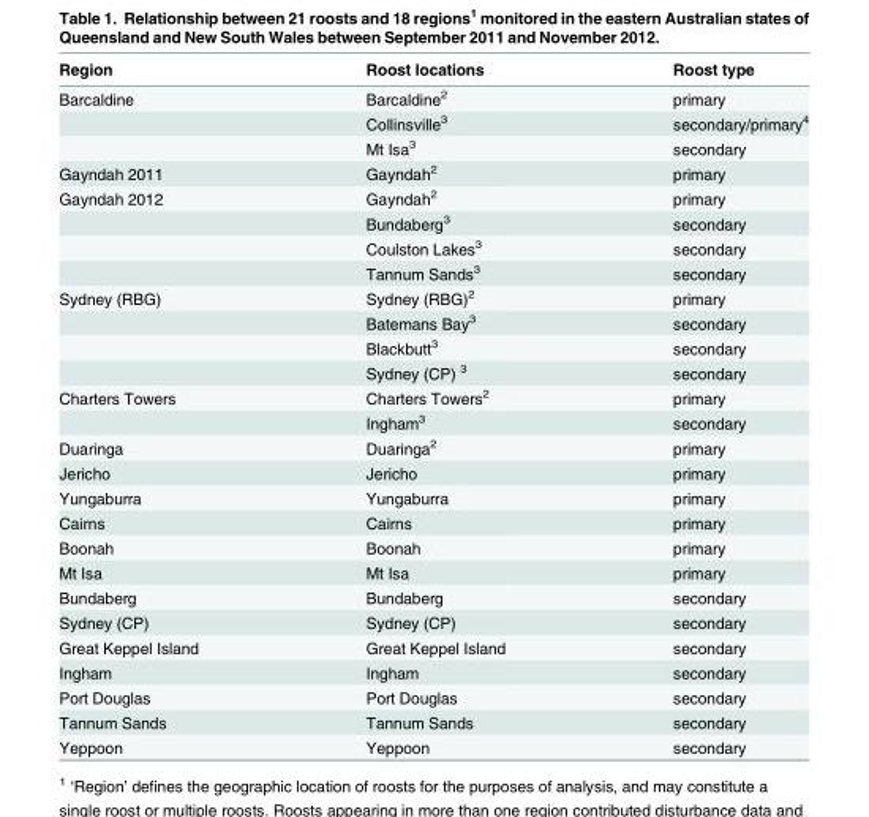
<table><thead><tr><td>Region</td><td>Roost locations</td><td>Roost type</td></tr></thead><tbody><tr><td rowspan="3">Barcaldine</td><td>Barcaldine<sup>2</sup></td><td>primary</td></tr><tr><td>Collinsville<sup>3</sup></td><td>secondary/primary<sup>4</sup></td></tr><tr><td>Mt Isa<sup>3</sup></td><td>secondary</td></tr><tr><td>Gayndah 2011</td><td>Gayndah<sup>2</sup></td><td>primary</td></tr><tr><td rowspan="4">Gayndah 2012</td><td>Gayndah<sup>2</sup></td><td>primary</td></tr><tr><td>Bundaberg<sup>3</sup></td><td>secondary</td></tr><tr><td>Coulston Lakes<sup>3</sup></td><td>secondary</td></tr><tr><td>Tannum Sands<sup>3</sup></td><td>secondary</td></tr><tr><td rowspan="4">Sydney (RBG)</td><td>Sydney (RBG)<sup>2</sup></td><td>primary</td></tr><tr><td>Batemans Bay<sup>3</sup></td><td>secondary</td></tr><tr><td>Blackbutt<sup>3</sup></td><td>secondary</td></tr><tr><td>Sydney (CP) <sup>3</sup></td><td>secondary</td></tr><tr><td rowspan="2">Charters Towers</td><td>Charters Towers<sup>2</sup></td><td>primary</td></tr><tr><td>Ingham<sup>3</sup></td><td>secondary</td></tr><tr><td>Duaringa</td><td>Duaringa<sup>2</sup></td><td>primary</td></tr><tr><td>Jericho</td><td>Jericho</td><td>primary</td></tr><tr><td>Yungaburra</td><td>Yungaburra</td><td>primary</td></tr><tr><td>Cairns</td><td>Cairns</td><td>primary</td></tr><tr><td>Boonah</td><td>Boonah</td><td>primary</td></tr><tr><td>Mt Isa</td><td>Mt Isa</td><td>primary</td></tr><tr><td>Bundaberg</td><td>Bundaberg</td><td>secondary</td></tr><tr><td>Sydney (CP)</td><td>Sydney (CP)</td><td>secondary</td></tr><tr><td>Great Keppel Island</td><td>Great Keppel Island</td><td>secondary</td></tr><tr><td>Ingham</td><td>Ingham</td><td>secondary</td></tr><tr><td>Port Douglas</td><td>Port Douglas</td><td>secondary</td></tr><tr><td>Tannum Sands</td><td>Tannum Sands</td><td>secondary</td></tr><tr><td>Yeppoon</td><td>Yeppoon</td><td>secondary</td></tr></tbody></table>